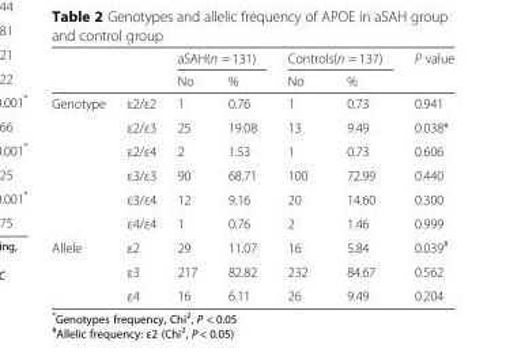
<table><thead><tr><td rowspan="2"></td><td rowspan="2"></td><td colspan="2">aSAH(n = 131)</td><td colspan="2">Controls(n = 137)</td><td rowspan="2">P value</td></tr><tr><td>No</td><td>%</td><td>No</td><td>%</td></tr></thead><tbody><tr><td rowspan="6">Genotype</td><td>ε2/ε2</td><td>1</td><td>0.76</td><td>1</td><td>0.73</td><td>0.941</td></tr><tr><td>ε2/ε3</td><td>25</td><td>19.08</td><td>13</td><td>9.49</td><td>0.038*</td></tr><tr><td>ε2/ε4</td><td>2</td><td>1.53</td><td>1</td><td>0.73</td><td>0.606</td></tr><tr><td>ε3/ε3</td><td>90</td><td>68.71</td><td>100</td><td>72.99</td><td>0.440</td></tr><tr><td>ε3/ε4</td><td>12</td><td>9.16</td><td>20</td><td>14.60</td><td>0.300</td></tr><tr><td>ε4/ε4</td><td>1</td><td>0.76</td><td>2</td><td>1.46</td><td>0.999</td></tr><tr><td rowspan="3">Allele</td><td>ε2</td><td>29</td><td>11.07</td><td>16</td><td>5.84</td><td>0.039<sup>#</sup></td></tr><tr><td>ε3</td><td>217</td><td>82.82</td><td>232</td><td>84.67</td><td>0.562</td></tr><tr><td>ε4</td><td>16</td><td>6.11</td><td>26</td><td>9.49</td><td>0.204</td></tr></tbody></table>